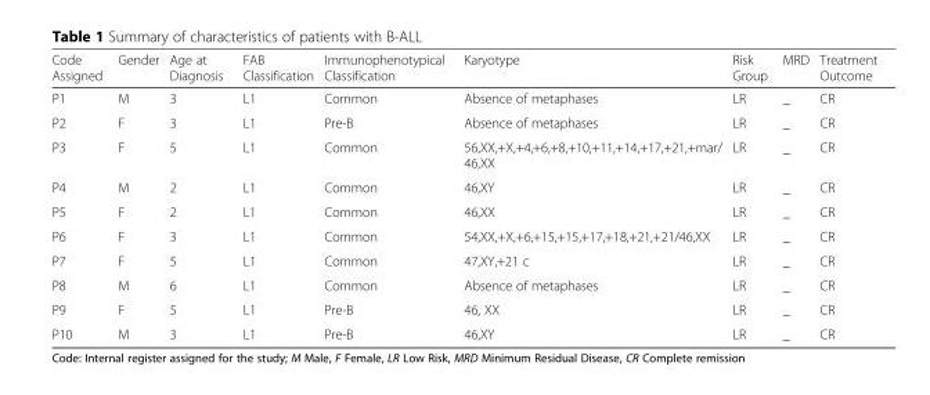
<table><thead><tr><td>Code Assigned</td><td>Gender</td><td>Age at Diagnosis</td><td>FAB Classification</td><td>Immunophenotypical Classification</td><td>Karyotype</td><td>Risk Group</td><td>MRD</td><td>Treatment Outcome</td></tr></thead><tbody><tr><td>P1</td><td>M</td><td>3</td><td>L1</td><td>Common</td><td>Absence of metaphases</td><td>LR</td><td>_</td><td>CR</td></tr><tr><td>P2</td><td>F</td><td>3</td><td>L1</td><td>Pre-B</td><td>Absence of metaphases</td><td>LR</td><td>_</td><td>CR</td></tr><tr><td>P3</td><td>F</td><td>5</td><td>L1</td><td>Common</td><td>56,XX,+X,+4,+6,+8,+10,+11,+14,+17,+21,+mar/ 46,XX</td><td>LR</td><td>_</td><td>CR</td></tr><tr><td>P4</td><td>M</td><td>2</td><td>L1</td><td>Common</td><td>46,XY</td><td>LR</td><td>_</td><td>CR</td></tr><tr><td>P5</td><td>F</td><td>2</td><td>L1</td><td>Common</td><td>46,XX</td><td>LR</td><td>_</td><td>CR</td></tr><tr><td>P6</td><td>F</td><td>3</td><td>L1</td><td>Common</td><td>54,XX,+X,+6,+15,+15,+17,+18,+21,+21/46,XX</td><td>LR</td><td>_</td><td>CR</td></tr><tr><td>P7</td><td>F</td><td>5</td><td>L1</td><td>Common</td><td>47,XY,+21 c</td><td>LR</td><td>_</td><td>CR</td></tr><tr><td>P8</td><td>M</td><td>6</td><td>L1</td><td>Common</td><td>Absence of metaphases</td><td>LR</td><td>_</td><td>CR</td></tr><tr><td>P9</td><td>F</td><td>5</td><td>L1</td><td>Pre-B</td><td>46, XX</td><td>LR</td><td>_</td><td>CR</td></tr><tr><td>P10</td><td>M</td><td>3</td><td>L1</td><td>Pre-B</td><td>46,XY</td><td>LR</td><td>_</td><td>CR</td></tr></tbody></table>